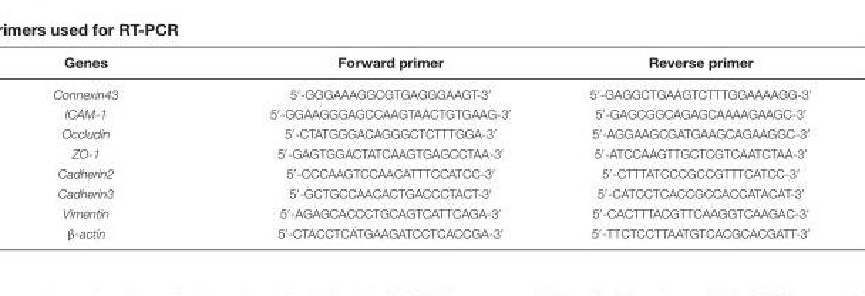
<table><thead><tr><td>Genes</td><td>Forward primer</td><td>Reverse primer</td></tr></thead><tbody><tr><td>Connexin43</td><td>5′-GGGAAAGGCGTGAGGGAAGT-3′</td><td>5′-GAGGCTGAAGTCTTTGGAAAAGG-3′</td></tr><tr><td>ICAM-1</td><td>5′-GGAAGGGAGCCAAGTAACTGTGAAG-3′</td><td>5′-GAGCGGCAGAGCAAAAGAAGC-3′</td></tr><tr><td>Occludin</td><td>5′-CTATGGGACAGGGCTCTTTGGA-3′</td><td>5′-AGGAAGCGATGAAGCAGAAGGC-3′</td></tr><tr><td>ZO-1</td><td>5′-GAGTGGACTATCAAGTGAGCCTAA-3′</td><td>5′-ATCCAAGTTGCTCGTCAATCTAA-3′</td></tr><tr><td>Cadherin2</td><td>5′-CCCAAGTCCAACATTTCCATCC-3′</td><td>5′-CTTTATCCCGCCGTTTCATCC-3′</td></tr><tr><td>Cadherin3</td><td>5′-GCTGCCAACACTGACCCTACT-3′</td><td>5′-CATCCTCACCGCCACCATACAT-3′</td></tr><tr><td>Vimentin</td><td>5′-AGAGCACCCTGCAGTCATTCAGA-3′</td><td>5′-CACTTTACGTTCAAGGTCAAGAC-3′</td></tr><tr><td>β-actin</td><td>5′-CTACCTCATGAAGATCCTCACCGA-3′</td><td>5′-TTCTCCTTAATGTCACGCACGATT-3′</td></tr></tbody></table>